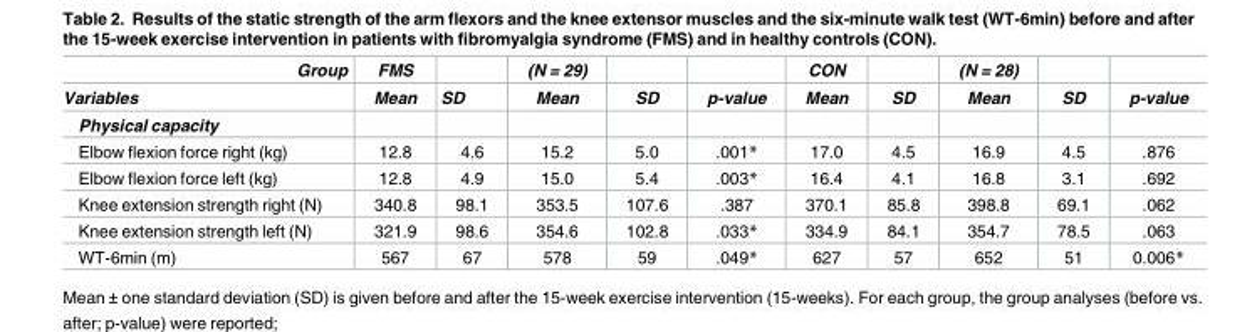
<table><thead><tr><td rowspan="2">Group Variables</td><td rowspan="2">FMS Mean</td><td rowspan="2">SD</td><td rowspan="2">(N = 29) Mean</td><td rowspan="2">SD</td><td rowspan="2">p-value</td><td rowspan="2">CON Mean</td><td rowspan="2">SD</td><td rowspan="2">(N = 28) Mean</td><td rowspan="2">SD</td><td rowspan="2">p-value</td></tr><tr></tr></thead><tbody><tr><td colspan="11">Physical capacity</td></tr><tr><td>Elbow flexion force right (kg)</td><td>12.8</td><td>4.6</td><td>15.2</td><td>5.0</td><td>.001*</td><td>17.0</td><td>4.5</td><td>16.9</td><td>4.5</td><td>.876</td></tr><tr><td>Elbow flexion force left (kg)</td><td>12.8</td><td>4.9</td><td>15.0</td><td>5.4</td><td>.003*</td><td>16.4</td><td>4.1</td><td>16.8</td><td>3.1</td><td>.692</td></tr><tr><td>Knee extension strength right (N)</td><td>340.8</td><td>98.1</td><td>353.5</td><td>107.6</td><td>.387</td><td>370.1</td><td>85.8</td><td>398.8</td><td>69.1</td><td>.062</td></tr><tr><td>Knee extension strength left (N)</td><td>321.9</td><td>98.6</td><td>354.6</td><td>102.8</td><td>.033*</td><td>334.9</td><td>84.1</td><td>354.7</td><td>78.5</td><td>.063</td></tr><tr><td>WT-6min (m)</td><td>567</td><td>67</td><td>578</td><td>59</td><td>.049*</td><td>627</td><td>57</td><td>652</td><td>51</td><td>0.006*</td></tr></tbody></table>